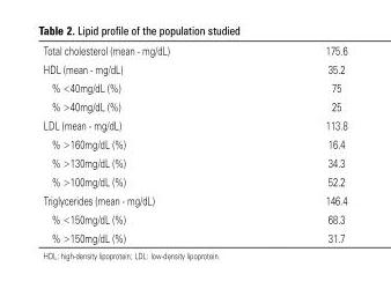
<table><thead><tr><td>Total cholesterol (mean - mg/dL)</td><td>175.6</td></tr></thead><tbody><tr><td>HDL (mean - mg/dL)</td><td>35.2</td></tr><tr><td>% &lt;40mg/dL (%)</td><td>75</td></tr><tr><td>% &gt;40mg/dL (%)</td><td>25</td></tr><tr><td>LDL (mean - mg/dL)</td><td>113.8</td></tr><tr><td>% &gt;160mg/dL (%)</td><td>16.4</td></tr><tr><td>% &gt;130mg/dL (%)</td><td>34.3</td></tr><tr><td>% &gt;100mg/dL (%)</td><td>52.2</td></tr><tr><td>Triglycerides (mean - mg/dL)</td><td>146.4</td></tr><tr><td>% &lt;150mg/dL (%)</td><td>68.3</td></tr><tr><td>% &gt;150mg/dL (%)</td><td>31.7</td></tr></tbody></table>